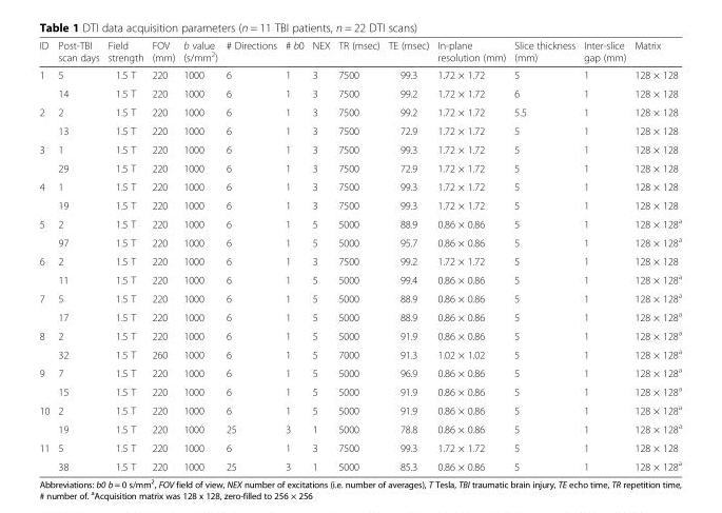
<table><thead><tr><td>ID</td><td>Post-TBI scan days</td><td>Field strength</td><td>FOV (mm)</td><td>b value (s/mm<sup>2</sup>)</td><td># Directions</td><td># b0</td><td>NEX</td><td>TR (msec)</td><td>TE (msec)</td><td>In-plane resolution (mm)</td><td>Slice thickness (mm)</td><td>Inter-slice gap (mm)</td><td>Matrix</td></tr></thead><tbody><tr><td rowspan="2">1</td><td>5</td><td>1.5 T</td><td>220</td><td>1000</td><td>6</td><td>1</td><td>3</td><td>7500</td><td>99.3</td><td>1.72 × 1.72</td><td>5</td><td>1</td><td>128 × 128</td></tr><tr><td>14</td><td>1.5 T</td><td>220</td><td>1000</td><td>6</td><td>1</td><td>3</td><td>7500</td><td>99.2</td><td>1.72 × 1.72</td><td>6</td><td>1</td><td>128 × 128</td></tr><tr><td rowspan="2">2</td><td>2</td><td>1.5 T</td><td>220</td><td>1000</td><td>6</td><td>1</td><td>3</td><td>7500</td><td>99.2</td><td>1.72 × 1.72</td><td>5.5</td><td>1</td><td>128 × 128</td></tr><tr><td>13</td><td>1.5 T</td><td>220</td><td>1000</td><td>6</td><td>1</td><td>3</td><td>7500</td><td>72.9</td><td>1.72 × 1.72</td><td>5</td><td>1</td><td>128 × 128</td></tr><tr><td rowspan="2">3</td><td>1</td><td>1.5 T</td><td>220</td><td>1000</td><td>6</td><td>1</td><td>3</td><td>7500</td><td>99.3</td><td>1.72 × 1.72</td><td>5</td><td>1</td><td>128 × 128</td></tr><tr><td>29</td><td>1.5 T</td><td>220</td><td>1000</td><td>6</td><td>1</td><td>3</td><td>7500</td><td>72.9</td><td>1.72 × 1.72</td><td>5</td><td>1</td><td>128 × 128</td></tr><tr><td rowspan="2">4</td><td>1</td><td>1.5 T</td><td>220</td><td>1000</td><td>6</td><td>1</td><td>3</td><td>7500</td><td>99.3</td><td>1.72 × 1.72</td><td>5</td><td>1</td><td>128 × 128</td></tr><tr><td>19</td><td>1.5 T</td><td>220</td><td>1000</td><td>6</td><td>1</td><td>3</td><td>7500</td><td>99.3</td><td>1.72 × 1.72</td><td>5</td><td>1</td><td>128 × 128</td></tr><tr><td rowspan="2">5</td><td>2</td><td>1.5 T</td><td>220</td><td>1000</td><td>6</td><td>1</td><td>5</td><td>5000</td><td>88.9</td><td>0.86 × 0.86</td><td>5</td><td>1</td><td>128 × 128<sup>a</sup></td></tr><tr><td>97</td><td>1.5 T</td><td>220</td><td>1000</td><td>6</td><td>1</td><td>5</td><td>5000</td><td>95.7</td><td>0.86 × 0.86</td><td>5</td><td>1</td><td>128 × 128<sup>a</sup></td></tr><tr><td rowspan="2">6</td><td>2</td><td>1.5 T</td><td>220</td><td>1000</td><td>6</td><td>1</td><td>3</td><td>7500</td><td>99.2</td><td>1.72 × 1.72</td><td>5</td><td>1</td><td>128 × 128</td></tr><tr><td>11</td><td>1.5 T</td><td>220</td><td>1000</td><td>6</td><td>1</td><td>5</td><td>5000</td><td>99.4</td><td>0.86 × 0.86</td><td>5</td><td>1</td><td>128 × 128<sup>a</sup></td></tr><tr><td rowspan="2">7</td><td>5</td><td>1.5 T</td><td>220</td><td>1000</td><td>6</td><td>1</td><td>5</td><td>5000</td><td>88.9</td><td>0.86 × 0.86</td><td>5</td><td>1</td><td>128 × 128<sup>a</sup></td></tr><tr><td>17</td><td>1.5 T</td><td>220</td><td>1000</td><td>6</td><td>1</td><td>5</td><td>5000</td><td>88.9</td><td>0.86 × 0.86</td><td>5</td><td>1</td><td>128 × 128<sup>a</sup></td></tr><tr><td rowspan="2">8</td><td>2</td><td>1.5 T</td><td>220</td><td>1000</td><td>6</td><td>1</td><td>5</td><td>5000</td><td>91.9</td><td>0.86 × 0.86</td><td>5</td><td>1</td><td>128 × 128<sup>a</sup></td></tr><tr><td>32</td><td>1.5 T</td><td>260</td><td>1000</td><td>6</td><td>1</td><td>5</td><td>7000</td><td>91.3</td><td>1.02 × 1.02</td><td>5</td><td>1</td><td>128 × 128<sup>a</sup></td></tr><tr><td rowspan="2">9</td><td>7</td><td>1.5 T</td><td>220</td><td>1000</td><td>6</td><td>1</td><td>5</td><td>5000</td><td>96.9</td><td>0.86 × 0.86</td><td>5</td><td>1</td><td>128 × 128<sup>a</sup></td></tr><tr><td>15</td><td>1.5 T</td><td>220</td><td>1000</td><td>6</td><td>1</td><td>5</td><td>5000</td><td>91.9</td><td>0.86 × 0.86</td><td>5</td><td>1</td><td>128 × 128<sup>a</sup></td></tr><tr><td rowspan="2">10</td><td>2</td><td>1.5 T</td><td>220</td><td>1000</td><td>6</td><td>1</td><td>5</td><td>5000</td><td>91.9</td><td>0.86 × 0.86</td><td>5</td><td>1</td><td>128 × 128<sup>a</sup></td></tr><tr><td>19</td><td>1.5 T</td><td>220</td><td>1000</td><td>25</td><td>3</td><td>1</td><td>5000</td><td>78.8</td><td>0.86 × 0.86</td><td>5</td><td>1</td><td>128 × 128<sup>a</sup></td></tr><tr><td rowspan="2">11</td><td>5</td><td>1.5 T</td><td>220</td><td>1000</td><td>6</td><td>1</td><td>3</td><td>7500</td><td>99.3</td><td>1.72 × 1.72</td><td>5</td><td>1</td><td>128 × 128</td></tr><tr><td>38</td><td>1.5 T</td><td>220</td><td>1000</td><td>25</td><td>3</td><td>1</td><td>5000</td><td>85.3</td><td>0.86 × 0.86</td><td>5</td><td>1</td><td>128 × 128<sup>a</sup></td></tr></tbody></table>